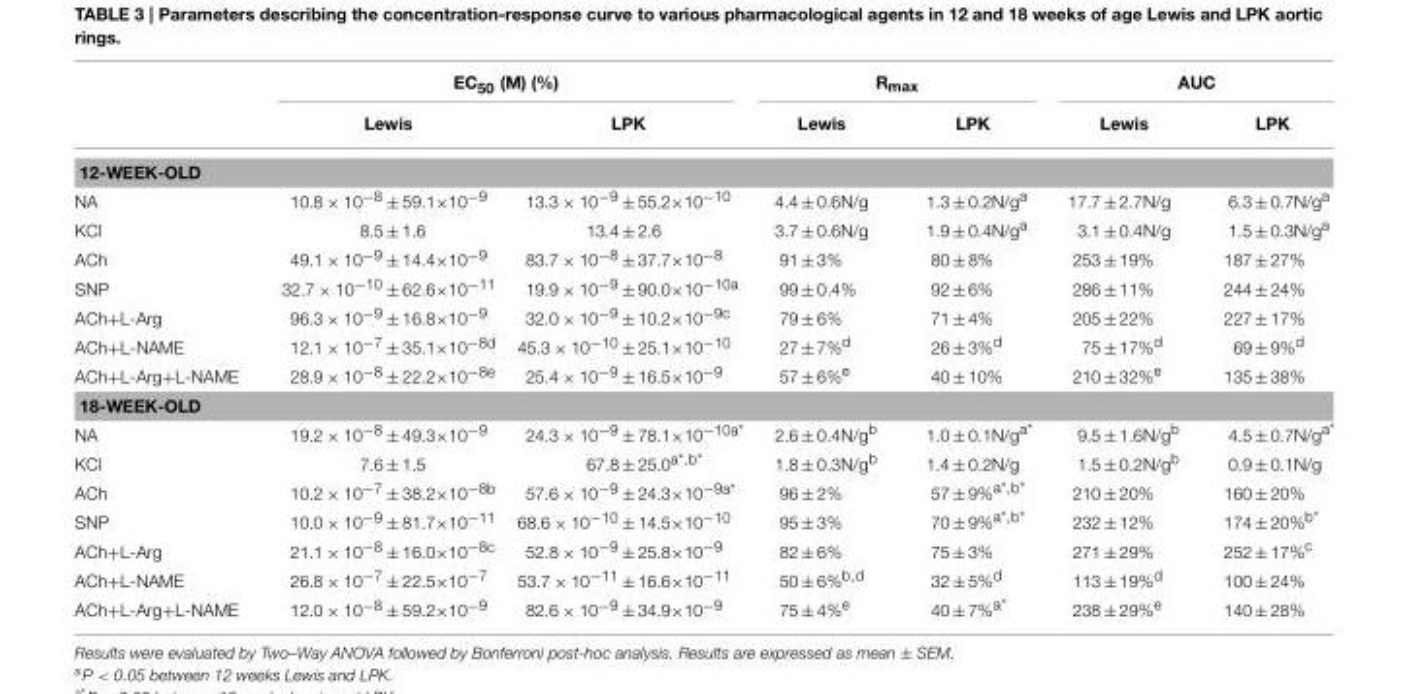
<table><thead><tr><td rowspan="2"></td><td colspan="2">EC<sub>50</sub> (M) (%)</td><td colspan="2">R<sub>max</sub></td><td colspan="2">AUC</td></tr><tr><td>Lewis</td><td>LPK</td><td>Lewis</td><td>LPK</td><td>Lewis</td><td>LPK</td></tr></thead><tbody><tr><td colspan="7">12-WEEK-OLD</td></tr><tr><td>NA</td><td>10.8 × 10<sup>−8</sup> ± 59.1×10<sup>−9</sup></td><td>13.3 × 10<sup>−9</sup> ± 55.2×10<sup>−10</sup></td><td>4.4 ± 0.6N/g</td><td>1.3 ± 0.2N/g<sup>a</sup></td><td>17.7 ± 2.7N/g</td><td>6.3 ± 0.7N/g<sup>a</sup></td></tr><tr><td>KCl</td><td>8.5 ± 1.6</td><td>13.4 ± 2.6</td><td>3.7 ± 0.6N/g</td><td>1.9 ± 0.4N/g<sup>a</sup></td><td>3.1 ± 0.4N/g</td><td>1.5 ± 0.3N/g<sup>a</sup></td></tr><tr><td>ACh</td><td>49.1 × 10<sup>−9</sup> ± 14.4×10<sup>−9</sup></td><td>83.7 × 10<sup>−8</sup> ± 37.7×10<sup>−8</sup></td><td>91 ± 3%</td><td>80 ± 8%</td><td>253 ± 19%</td><td>187 ± 27%</td></tr><tr><td>SNP</td><td>32.7 × 10<sup>−10</sup> ± 62.6×10<sup>−11</sup></td><td>19.9 × 10<sup>−9</sup> ± 90.0×10<sup>−10a</sup></td><td>99 ± 0.4%</td><td>92 ± 6%</td><td>286 ± 11%</td><td>244 ± 24%</td></tr><tr><td>ACh+L-Arg</td><td>96.3 × 10<sup>−9</sup> ± 16.8×10<sup>−9</sup></td><td>32.0 × 10<sup>−9</sup> ± 10.2×10<sup>−9c</sup></td><td>79 ± 6%</td><td>71 ± 4%</td><td>205 ± 22%</td><td>227 ± 17%</td></tr><tr><td>ACh+L-NAME</td><td>12.1 × 10<sup>−7</sup> ± 35.1×10<sup>−8d</sup></td><td>45.3 × 10<sup>−10</sup> ± 25.1×10<sup>−10</sup></td><td>27 ± 7%<sup>d</sup></td><td>26 ± 3%<sup>d</sup></td><td>75 ± 17%<sup>d</sup></td><td>69 ± 9%<sup>d</sup></td></tr><tr><td>ACh+L-Arg+L-NAME</td><td>28.9 × 10<sup>−8</sup> ± 22.2×10<sup>−8e</sup></td><td>25.4 × 10<sup>−9</sup> ± 16.5×10<sup>−9</sup></td><td>57 ± 6%<sup>e</sup></td><td>40 ± 10%</td><td>210 ± 32%<sup>e</sup></td><td>135 ± 38%</td></tr><tr><td colspan="7">18-WEEK-OLD</td></tr><tr><td>NA</td><td>19.2 × 10<sup>−8</sup> ± 49.3×10<sup>−9</sup></td><td>24.3 × 10<sup>−9</sup> ± 78.1×10<sup>−10a*</sup></td><td>2.6 ± 0.4N/g<sup>b</sup></td><td>1.0 ± 0.1N/g<sup>a*</sup></td><td>9.5 ± 1.6N/g<sup>b</sup></td><td>4.5 ± 0.7N/g<sup>a*</sup></td></tr><tr><td>KCl</td><td>7.6 ± 1.5</td><td>67.8 ± 25.0<sup>a*,b*</sup></td><td>1.8 ± 0.3N/g<sup>b</sup></td><td>1.4 ± 0.2N/g</td><td>1.5 ± 0.2N/g<sup>b</sup></td><td>0.9 ± 0.1N/g</td></tr><tr><td>ACh</td><td>10.2 × 10<sup>−7</sup> ± 38.2×10<sup>−8b</sup></td><td>57.6 × 10<sup>−9</sup> ± 24.3×10<sup>−9a*</sup></td><td>96 ± 2%</td><td>57 ± 9%<sup>a*,b*</sup></td><td>210 ± 20%</td><td>160 ± 20%</td></tr><tr><td>SNP</td><td>10.0 × 10<sup>−9</sup> ± 81.7×10<sup>−11</sup></td><td>68.6 × 10<sup>−10</sup> ± 14.5×10<sup>−10</sup></td><td>95 ± 3%</td><td>70 ± 9%<sup>a*,b*</sup></td><td>232 ± 12%</td><td>174 ± 20%<sup>b*</sup></td></tr><tr><td>ACh+L-Arg</td><td>21.1 × 10<sup>−8</sup> ± 16.0×10<sup>−8c</sup></td><td>52.8 × 10<sup>−9</sup> ± 25.8×10<sup>−9</sup></td><td>82 ± 6%</td><td>75 ± 3%</td><td>271 ± 29%</td><td>252 ± 17%<sup>c</sup></td></tr><tr><td>ACh+L-NAME</td><td>26.8 × 10<sup>−7</sup> ± 22.5×10<sup>−7</sup></td><td>53.7 × 10<sup>−11</sup> ± 16.6×10<sup>−11</sup></td><td>50 ± 6%<sup>b,d</sup></td><td>32 ± 5%<sup>d</sup></td><td>113 ± 19%<sup>d</sup></td><td>100 ± 24%</td></tr><tr><td>ACh+L-Arg+L-NAME</td><td>12.0 × 10<sup>−8</sup> ± 59.2×10<sup>−9</sup></td><td>82.6 × 10<sup>−9</sup> ± 34.9×10<sup>−9</sup></td><td>75 ± 4%<sup>e</sup></td><td>40 ± 7%<sup>a*</sup></td><td>238 ± 29%<sup>e</sup></td><td>140 ± 28%</td></tr></tbody></table>